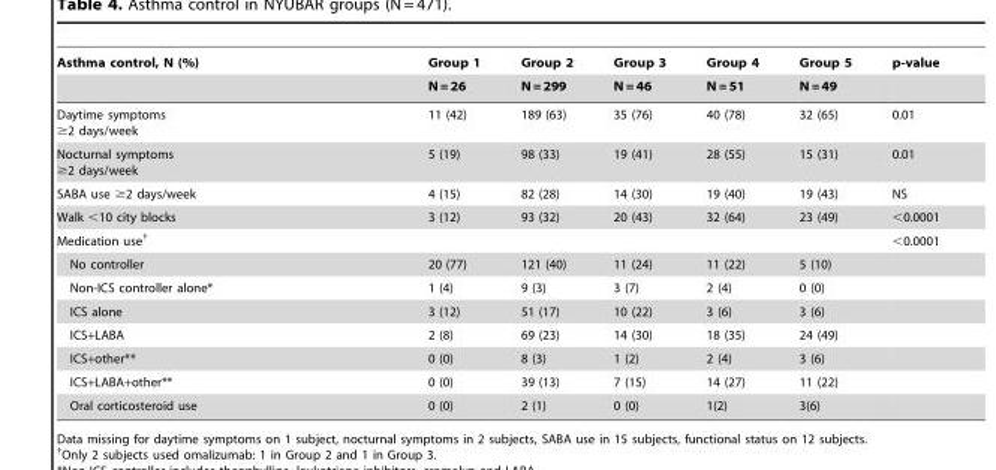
<table><thead><tr><td rowspan="2">Asthma control, N (%)</td><td rowspan="2">Group 1 N = 26</td><td rowspan="2">Group 2 N = 299</td><td rowspan="2">Group 3 N = 46</td><td rowspan="2">Group 4 N = 51</td><td rowspan="2">Group 5 N = 49</td><td rowspan="2">p-value</td></tr><tr></tr></thead><tbody><tr><td>Daytime symptoms ≥2 days/week</td><td>11 (42)</td><td>189 (63)</td><td>35 (76)</td><td>40 (78)</td><td>32 (65)</td><td>0.01</td></tr><tr><td>Nocturnal symptoms ≥2 days/week</td><td>5 (19)</td><td>98 (33)</td><td>19 (41)</td><td>28 (55)</td><td>15 (31)</td><td>0.01</td></tr><tr><td>SABA use ≥2 days/week</td><td>4 (15)</td><td>82 (28)</td><td>14 (30)</td><td>19 (40)</td><td>19 (43)</td><td>NS</td></tr><tr><td>Walk &lt;10 city blocks</td><td>3 (12)</td><td>93 (32)</td><td>20 (43)</td><td>32 (64)</td><td>23 (49)</td><td>&lt;0.0001</td></tr><tr><td>Medication use†</td><td></td><td></td><td></td><td></td><td></td><td>&lt;0.0001</td></tr><tr><td>No controller</td><td>20 (77)</td><td>121 (40)</td><td>11 (24)</td><td>11 (22)</td><td>5 (10)</td><td></td></tr><tr><td>Non-ICS controller alone*</td><td>1 (4)</td><td>9 (3)</td><td>3 (7)</td><td>2 (4)</td><td>0 (0)</td><td></td></tr><tr><td>ICS alone</td><td>3 (12)</td><td>51 (17)</td><td>10 (22)</td><td>3 (6)</td><td>3 (6)</td><td></td></tr><tr><td>ICS+LABA</td><td>2 (8)</td><td>69 (23)</td><td>14 (30)</td><td>18 (35)</td><td>24 (49)</td><td></td></tr><tr><td>ICS+other**</td><td>0 (0)</td><td>8 (3)</td><td>1 (2)</td><td>2 (4)</td><td>3 (6)</td><td></td></tr><tr><td>ICS+LABA+other**</td><td>0 (0)</td><td>39 (13)</td><td>7 (15)</td><td>14 (27)</td><td>11 (22)</td><td></td></tr><tr><td>Oral corticosteroid use</td><td>0 (0)</td><td>2 (1)</td><td>0 (0)</td><td>1(2)</td><td>3(6)</td><td></td></tr></tbody></table>